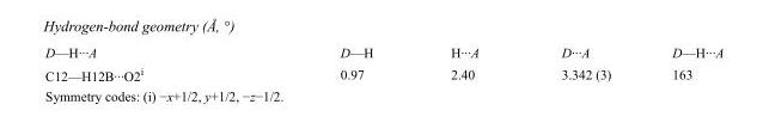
<table><tbody><tr><td>D—H···A</td><td>D—H</td><td>H···A</td><td>D···A</td><td>D—H···A</td></tr><tr><td>C12—H12B···O2<sup>i</sup></td><td>0.97</td><td>2.40</td><td>3.342 (3)</td><td>163</td></tr></tbody></table>